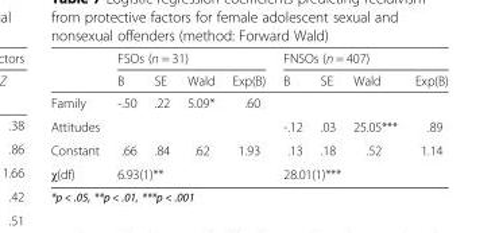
<table><thead><tr><td rowspan="2"></td><td colspan="4">FSOs (n = 31)</td><td colspan="4">FNSOs (n = 407)</td></tr><tr><td>B</td><td>SE</td><td>Wald</td><td>Exp(B)</td><td>B</td><td>SE</td><td>Wald</td><td>Exp(B)</td></tr></thead><tbody><tr><td>Family</td><td>-.50</td><td>.22</td><td>5.09*</td><td>.60</td><td></td><td></td><td></td><td></td></tr><tr><td>Attitudes</td><td></td><td></td><td></td><td></td><td>-.12</td><td>.03</td><td>25.05***</td><td>.89</td></tr><tr><td>Constant</td><td>.66</td><td>.84</td><td>.62</td><td>1.93</td><td>.13</td><td>.18</td><td>.52</td><td>1.14</td></tr><tr><td>χ(df)</td><td colspan="3">6.93(1)**</td><td></td><td colspan="3">28.01(1)***</td><td></td></tr></tbody></table>